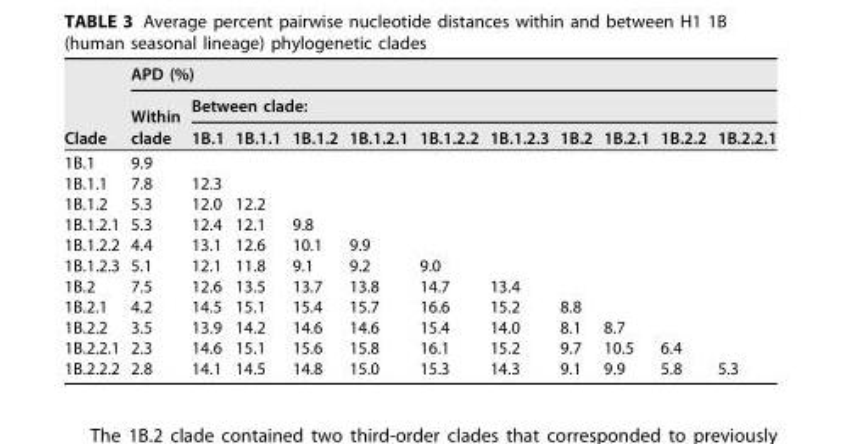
<table><thead><tr><td rowspan="3">Clade</td><td colspan="11">APD (%)</td></tr><tr><td rowspan="2">Within clade</td><td colspan="10">Between clade:</td></tr><tr><td>1B.1</td><td>1B.1.1</td><td>1B.1.2</td><td>1B.1.2.1</td><td>1B.1.2.2</td><td>1B.1.2.3</td><td>1B.2</td><td>1B.2.1</td><td>1B.2.2</td><td>1B.2.2.1</td></tr></thead><tbody><tr><td>1B.1</td><td>9.9</td><td></td><td></td><td></td><td></td><td></td><td></td><td></td><td></td><td></td><td></td></tr><tr><td>1B.1.1</td><td>7.8</td><td>12.3</td><td></td><td></td><td></td><td></td><td></td><td></td><td></td><td></td><td></td></tr><tr><td>1B.1.2</td><td>5.3</td><td>12.0</td><td>12.2</td><td></td><td></td><td></td><td></td><td></td><td></td><td></td><td></td></tr><tr><td>1B.1.2.1</td><td>5.3</td><td>12.4</td><td>12.1</td><td>9.8</td><td></td><td></td><td></td><td></td><td></td><td></td><td></td></tr><tr><td>1B.1.2.2</td><td>4.4</td><td>13.1</td><td>12.6</td><td>10.1</td><td>9.9</td><td></td><td></td><td></td><td></td><td></td><td></td></tr><tr><td>1B.1.2.3</td><td>5.1</td><td>12.1</td><td>11.8</td><td>9.1</td><td>9.2</td><td>9.0</td><td></td><td></td><td></td><td></td><td></td></tr><tr><td>1B.2</td><td>7.5</td><td>12.6</td><td>13.5</td><td>13.7</td><td>13.8</td><td>14.7</td><td>13.4</td><td></td><td></td><td></td><td></td></tr><tr><td>1B.2.1</td><td>4.2</td><td>14.5</td><td>15.1</td><td>15.4</td><td>15.7</td><td>16.6</td><td>15.2</td><td>8.8</td><td></td><td></td><td></td></tr><tr><td>1B.2.2</td><td>3.5</td><td>13.9</td><td>14.2</td><td>14.6</td><td>14.6</td><td>15.4</td><td>14.0</td><td>8.1</td><td>8.7</td><td></td><td></td></tr><tr><td>1B.2.2.1</td><td>2.3</td><td>14.6</td><td>15.1</td><td>15.6</td><td>15.8</td><td>16.1</td><td>15.2</td><td>9.7</td><td>10.5</td><td>6.4</td><td></td></tr><tr><td>1B.2.2.2</td><td>2.8</td><td>14.1</td><td>14.5</td><td>14.8</td><td>15.0</td><td>15.3</td><td>14.3</td><td>9.1</td><td>9.9</td><td>5.8</td><td>5.3</td></tr></tbody></table>